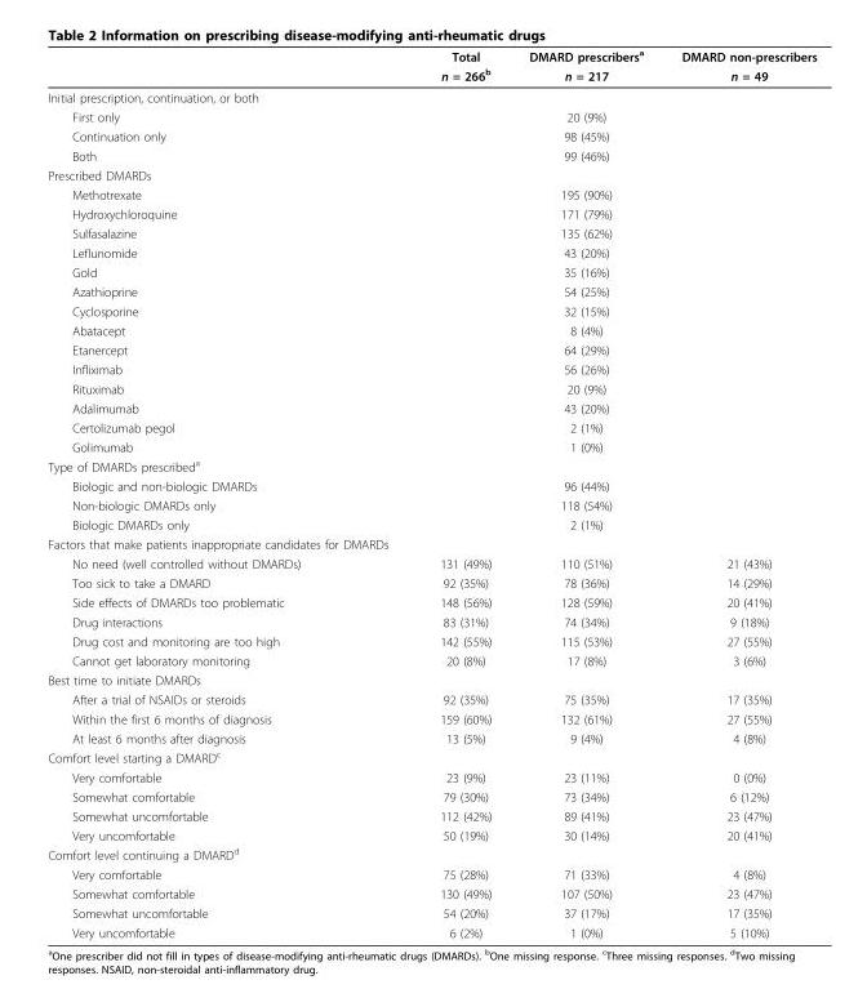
<table><thead><tr><td rowspan="2"></td><td rowspan="2">Total n = 266<sup>b</sup></td><td rowspan="2">DMARD prescribers<sup>a</sup> n = 217</td><td rowspan="2">DMARD non-prescribers n = 49</td></tr><tr></tr></thead><tbody><tr><td colspan="4">Initial prescription, continuation, or both</td></tr><tr><td>First only</td><td></td><td>20 (9%)</td><td></td></tr><tr><td>Continuation only</td><td></td><td>98 (45%)</td><td></td></tr><tr><td>Both</td><td></td><td>99 (46%)</td><td></td></tr><tr><td colspan="4">Prescribed DMARDs</td></tr><tr><td>Methotrexate</td><td></td><td>195 (90%)</td><td></td></tr><tr><td>Hydroxychloroquine</td><td></td><td>171 (79%)</td><td></td></tr><tr><td>Sulfasalazine</td><td></td><td>135 (62%)</td><td></td></tr><tr><td>Leflunomide</td><td></td><td>43 (20%)</td><td></td></tr><tr><td>Gold</td><td></td><td>35 (16%)</td><td></td></tr><tr><td>Azathioprine</td><td></td><td>54 (25%)</td><td></td></tr><tr><td>Cyclosporine</td><td></td><td>32 (15%)</td><td></td></tr><tr><td>Abatacept</td><td></td><td>8 (4%)</td><td></td></tr><tr><td>Etanercept</td><td></td><td>64 (29%)</td><td></td></tr><tr><td>Infliximab</td><td></td><td>56 (26%)</td><td></td></tr><tr><td>Rituximab</td><td></td><td>20 (9%)</td><td></td></tr><tr><td>Adalimumab</td><td></td><td>43 (20%)</td><td></td></tr><tr><td>Certolizumab pegol</td><td></td><td>2 (1%)</td><td></td></tr><tr><td>Golimumab</td><td></td><td>1 (0%)</td><td></td></tr><tr><td colspan="4">Type of DMARDs prescribed<sup>a</sup></td></tr><tr><td>Biologic and non-biologic DMARDs</td><td></td><td>96 (44%)</td><td></td></tr><tr><td>Non-biologic DMARDs only</td><td></td><td>118 (54%)</td><td></td></tr><tr><td>Biologic DMARDs only</td><td></td><td>2 (1%)</td><td></td></tr><tr><td colspan="4">Factors that make patients inappropriate candidates for DMARDs</td></tr><tr><td>No need (well controlled without DMARDs)</td><td>131 (49%)</td><td>110 (51%)</td><td>21 (43%)</td></tr><tr><td>Too sick to take a DMARD</td><td>92 (35%)</td><td>78 (36%)</td><td>14 (29%)</td></tr><tr><td>Side effects of DMARDs too problematic</td><td>148 (56%)</td><td>128 (59%)</td><td>20 (41%)</td></tr><tr><td>Drug interactions</td><td>83 (31%)</td><td>74 (34%)</td><td>9 (18%)</td></tr><tr><td>Drug cost and monitoring are too high</td><td>142 (55%)</td><td>115 (53%)</td><td>27 (55%)</td></tr><tr><td>Cannot get laboratory monitoring</td><td>20 (8%)</td><td>17 (8%)</td><td>3 (6%)</td></tr><tr><td colspan="4">Best time to initiate DMARDs</td></tr><tr><td>After a trial of NSAIDs or steroids</td><td>92 (35%)</td><td>75 (35%)</td><td>17 (35%)</td></tr><tr><td>Within the first 6 months of diagnosis</td><td>159 (60%)</td><td>132 (61%)</td><td>27 (55%)</td></tr><tr><td>At least 6 months after diagnosis</td><td>13 (5%)</td><td>9 (4%)</td><td>4 (8%)</td></tr><tr><td colspan="4">Comfort level starting a DMARD<sup>c</sup></td></tr><tr><td>Very comfortable</td><td>23 (9%)</td><td>23 (11%)</td><td>0 (0%)</td></tr><tr><td>Somewhat comfortable</td><td>79 (30%)</td><td>73 (34%)</td><td>6 (12%)</td></tr><tr><td>Somewhat uncomfortable</td><td>112 (42%)</td><td>89 (41%)</td><td>23 (47%)</td></tr><tr><td>Very uncomfortable</td><td>50 (19%)</td><td>30 (14%)</td><td>20 (41%)</td></tr><tr><td colspan="4">Comfort level continuing a DMARD<sup>d</sup></td></tr><tr><td>Very comfortable</td><td>75 (28%)</td><td>71 (33%)</td><td>4 (8%)</td></tr><tr><td>Somewhat comfortable</td><td>130 (49%)</td><td>107 (50%)</td><td>23 (47%)</td></tr><tr><td>Somewhat uncomfortable</td><td>54 (20%)</td><td>37 (17%)</td><td>17 (35%)</td></tr><tr><td>Very uncomfortable</td><td>6 (2%)</td><td>1 (0%)</td><td>5 (10%)</td></tr></tbody></table>